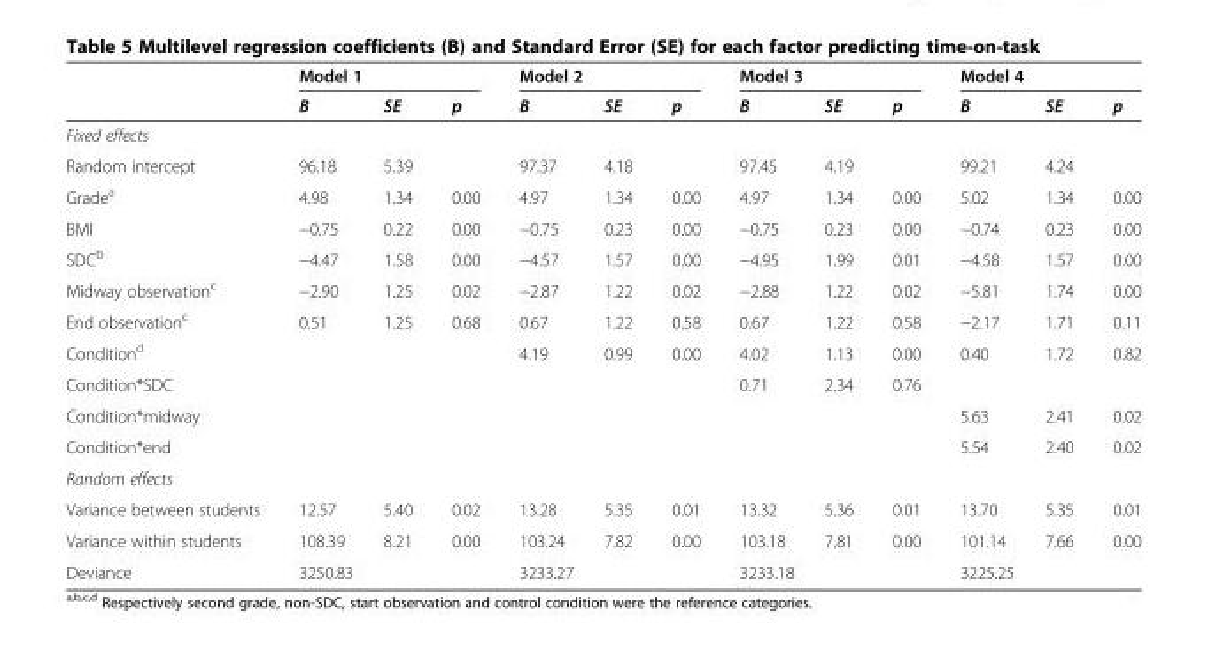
<table><thead><tr><td rowspan="2"></td><td colspan="3">Model 1</td><td colspan="3">Model 2</td><td colspan="3">Model 3</td><td colspan="3">Model 4</td></tr><tr><td>B</td><td>SE</td><td>p</td><td>B</td><td>SE</td><td>p</td><td>B</td><td>SE</td><td>p</td><td>B</td><td>SE</td><td>p</td></tr></thead><tbody><tr><td colspan="13">Fixed effects</td></tr><tr><td>Random intercept</td><td>96.18</td><td>5.39</td><td></td><td>97.37</td><td>4.18</td><td></td><td>97.45</td><td>4.19</td><td></td><td>99.21</td><td>4.24</td><td></td></tr><tr><td>Grade<sup>a</sup></td><td>4.98</td><td>1.34</td><td>0.00</td><td>4.97</td><td>1.34</td><td>0.00</td><td>4.97</td><td>1.34</td><td>0.00</td><td>5.02</td><td>1.34</td><td>0.00</td></tr><tr><td>BMI</td><td>−0.75</td><td>0.22</td><td>0.00</td><td>−0.75</td><td>0.23</td><td>0.00</td><td>−0.75</td><td>0.23</td><td>0.00</td><td>−0.74</td><td>0.23</td><td>0.00</td></tr><tr><td>SDC<sup>b</sup></td><td>−4.47</td><td>1.58</td><td>0.00</td><td>−4.57</td><td>1.57</td><td>0.00</td><td>−4.95</td><td>1.99</td><td>0.01</td><td>−4.58</td><td>1.57</td><td>0.00</td></tr><tr><td>Midway observation<sup>c</sup></td><td>−2.90</td><td>1.25</td><td>0.02</td><td>−2.87</td><td>1.22</td><td>0.02</td><td>−2.88</td><td>1.22</td><td>0.02</td><td>−5.81</td><td>1.74</td><td>0.00</td></tr><tr><td>End observation<sup>c</sup></td><td>0.51</td><td>1.25</td><td>0.68</td><td>0.67</td><td>1.22</td><td>0.58</td><td>0.67</td><td>1.22</td><td>0.58</td><td>−2.17</td><td>1.71</td><td>0.11</td></tr><tr><td>Condition<sup>d</sup></td><td></td><td></td><td></td><td>4.19</td><td>0.99</td><td>0.00</td><td>4.02</td><td>1.13</td><td>0.00</td><td>0.40</td><td>1.72</td><td>0.82</td></tr><tr><td>Condition*SDC</td><td></td><td></td><td></td><td></td><td></td><td></td><td>0.71</td><td>2.34</td><td>0.76</td><td></td><td></td><td></td></tr><tr><td>Condition*midway</td><td></td><td></td><td></td><td></td><td></td><td></td><td></td><td></td><td></td><td>5.63</td><td>2.41</td><td>0.02</td></tr><tr><td>Condition*end</td><td></td><td></td><td></td><td></td><td></td><td></td><td></td><td></td><td></td><td>5.54</td><td>2.40</td><td>0.02</td></tr><tr><td colspan="13">Random effects</td></tr><tr><td>Variance between students</td><td>12.57</td><td>5.40</td><td>0.02</td><td>13.28</td><td>5.35</td><td>0.01</td><td>13.32</td><td>5.36</td><td>0.01</td><td>13.70</td><td>5.35</td><td>0.01</td></tr><tr><td>Variance within students</td><td>108.39</td><td>8.21</td><td>0.00</td><td>103.24</td><td>7.82</td><td>0.00</td><td>103.18</td><td>7.81</td><td>0.00</td><td>101.14</td><td>7.66</td><td>0.00</td></tr><tr><td>Deviance</td><td colspan="3">3250.83</td><td colspan="3">3233.27</td><td colspan="3">3233.18</td><td colspan="3">3225.25</td></tr></tbody></table>